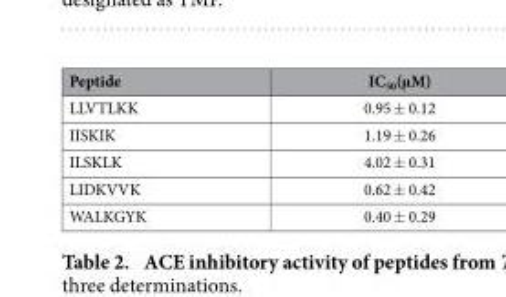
<table><thead><tr><td>Peptide</td><td>IC<sub>50</sub>(μM)</td></tr></thead><tbody><tr><td>LLVTLKK</td><td>0.95 ± 0.12</td></tr><tr><td>IISKIK</td><td>1.19 ± 0.26</td></tr><tr><td>ILSKLK</td><td>4.02 ± 0.31</td></tr><tr><td>LIDKVVK</td><td>0.62 ± 0.42</td></tr><tr><td>WALKGYK</td><td>0.40 ± 0.29</td></tr></tbody></table>